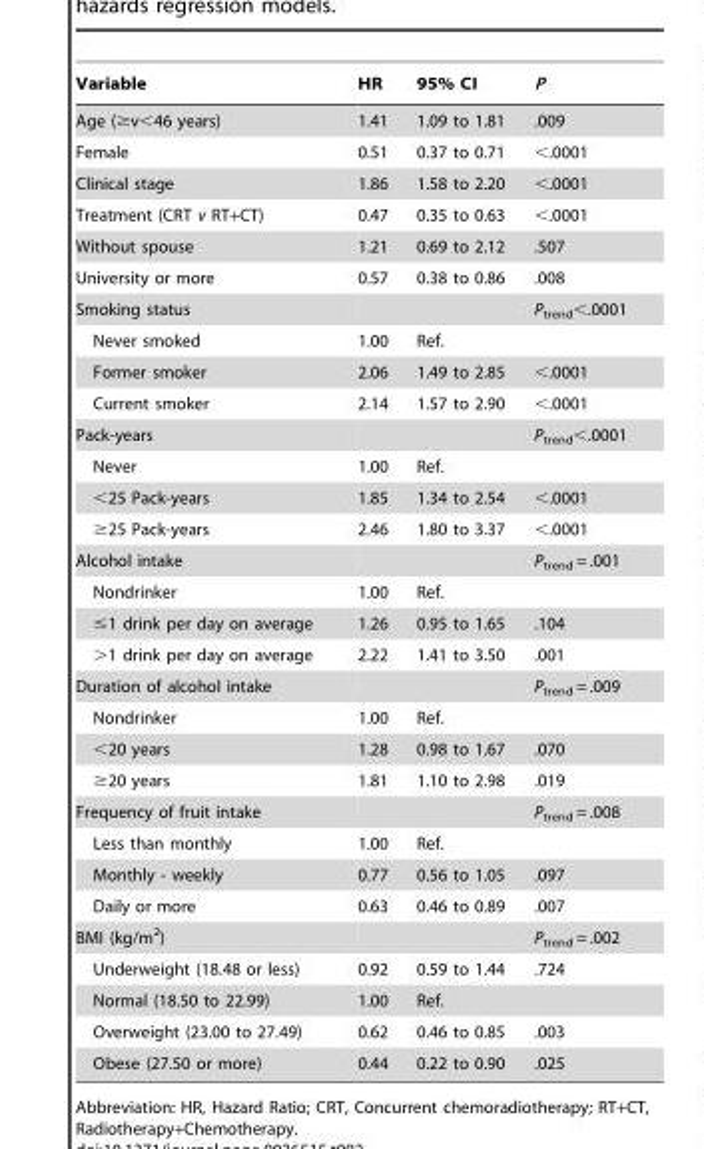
<table><thead><tr><td>Variable</td><td>HR</td><td>95% CI</td><td>P</td></tr></thead><tbody><tr><td>Age (≥v&lt;46 years)</td><td>1.41</td><td>1.09 to 1.81</td><td>.009</td></tr><tr><td>Female</td><td>0.51</td><td>0.37 to 0.71</td><td>&lt;.0001</td></tr><tr><td>Clinical stage</td><td>1.86</td><td>1.58 to 2.20</td><td>&lt;.0001</td></tr><tr><td>Treatment (CRT v RT+CT)</td><td>0.47</td><td>0.35 to 0.63</td><td>&lt;.0001</td></tr><tr><td>Without spouse</td><td>1.21</td><td>0.69 to 2.12</td><td>.507</td></tr><tr><td>University or more</td><td>0.57</td><td>0.38 to 0.86</td><td>.008</td></tr><tr><td>Smoking status</td><td></td><td></td><td>P<sub>trend</sub>&lt;.0001</td></tr><tr><td>Never smoked</td><td>1.00</td><td>Ref.</td><td></td></tr><tr><td>Former smoker</td><td>2.06</td><td>1.49 to 2.85</td><td>&lt;.0001</td></tr><tr><td>Current smoker</td><td>2.14</td><td>1.57 to 2.90</td><td>&lt;.0001</td></tr><tr><td>Pack-years</td><td></td><td></td><td>P<sub>trend</sub>&lt;.0001</td></tr><tr><td>Never</td><td>1.00</td><td>Ref.</td><td></td></tr><tr><td>&lt;25 Pack-years</td><td>1.85</td><td>1.34 to 2.54</td><td>&lt;.0001</td></tr><tr><td>≥25 Pack-years</td><td>2.46</td><td>1.80 to 3.37</td><td>&lt;.0001</td></tr><tr><td>Alcohol intake</td><td></td><td></td><td>P<sub>trend</sub> = .001</td></tr><tr><td>Nondrinker</td><td>1.00</td><td>Ref.</td><td></td></tr><tr><td>≤1 drink per day on average</td><td>1.26</td><td>0.95 to 1.65</td><td>.104</td></tr><tr><td>&gt;1 drink per day on average</td><td>2.22</td><td>1.41 to 3.50</td><td>.001</td></tr><tr><td>Duration of alcohol intake</td><td></td><td></td><td>P<sub>trend</sub> = .009</td></tr><tr><td>Nondrinker</td><td>1.00</td><td>Ref.</td><td></td></tr><tr><td>&lt;20 years</td><td>1.28</td><td>0.98 to 1.67</td><td>.070</td></tr><tr><td>≥20 years</td><td>1.81</td><td>1.10 to 2.98</td><td>.019</td></tr><tr><td>Frequency of fruit intake</td><td></td><td></td><td>P<sub>trend</sub> = .008</td></tr><tr><td>Less than monthly</td><td>1.00</td><td>Ref.</td><td></td></tr><tr><td>Monthly - weekly</td><td>0.77</td><td>0.56 to 1.05</td><td>.097</td></tr><tr><td>Daily or more</td><td>0.63</td><td>0.46 to 0.89</td><td>.007</td></tr><tr><td>BMI (kg/m<sup>2</sup>)</td><td></td><td></td><td>P<sub>trend</sub> = .002</td></tr><tr><td>Underweight (18.48 or less)</td><td>0.92</td><td>0.59 to 1.44</td><td>.724</td></tr><tr><td>Normal (18.50 to 22.99)</td><td>1.00</td><td>Ref.</td><td></td></tr><tr><td>Overweight (23.00 to 27.49)</td><td>0.62</td><td>0.46 to 0.85</td><td>.003</td></tr><tr><td>Obese (27.50 or more)</td><td>0.44</td><td>0.22 to 0.90</td><td>.025</td></tr></tbody></table>